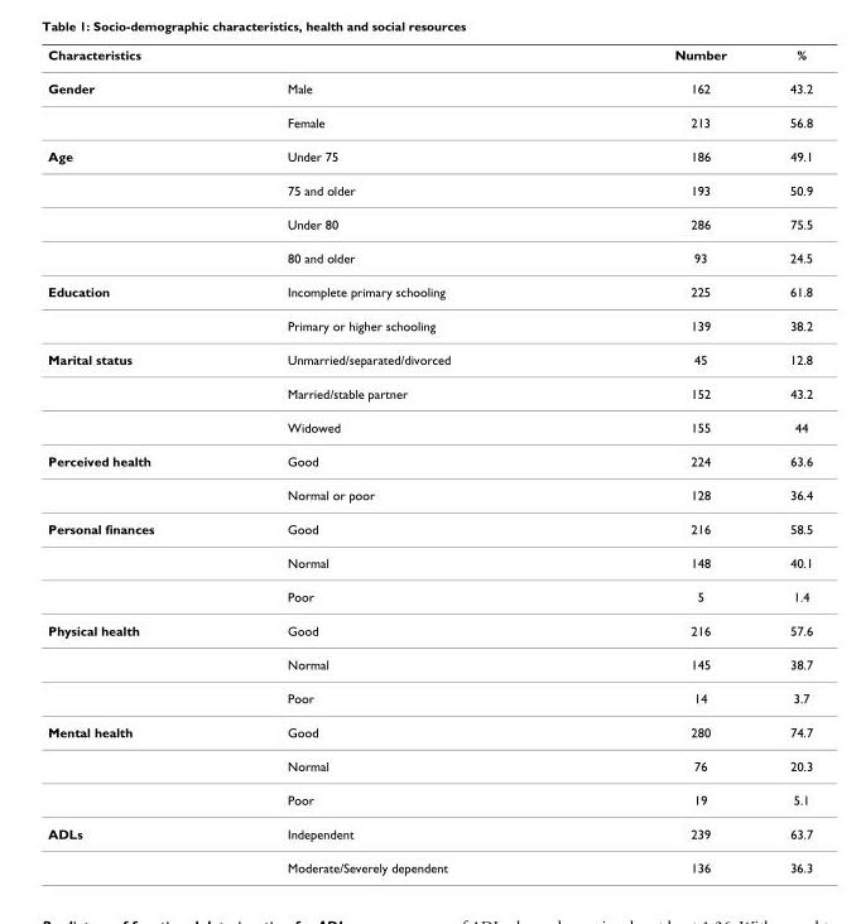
<table><thead><tr><td>Characteristics</td><td></td><td>Number</td><td>%</td></tr></thead><tbody><tr><td rowspan="2">Gender</td><td>Male</td><td>162</td><td>43.2</td></tr><tr><td>Female</td><td>213</td><td>56.8</td></tr><tr><td rowspan="4">Age</td><td>Under 75</td><td>186</td><td>49.1</td></tr><tr><td>75 and older</td><td>193</td><td>50.9</td></tr><tr><td>Under 80</td><td>286</td><td>75.5</td></tr><tr><td>80 and older</td><td>93</td><td>24.5</td></tr><tr><td rowspan="2">Education</td><td>Incomplete primary schooling</td><td>225</td><td>61.8</td></tr><tr><td>Primary or higher schooling</td><td>139</td><td>38.2</td></tr><tr><td rowspan="3">Marital status</td><td>Unmarried/separated/divorced</td><td>45</td><td>12.8</td></tr><tr><td>Married/stable partner</td><td>152</td><td>43.2</td></tr><tr><td>Widowed</td><td>155</td><td>44</td></tr><tr><td rowspan="2">Perceived health</td><td>Good</td><td>224</td><td>63.6</td></tr><tr><td>Normal or poor</td><td>128</td><td>36.4</td></tr><tr><td rowspan="3">Personal finances</td><td>Good</td><td>216</td><td>58.5</td></tr><tr><td>Normal</td><td>148</td><td>40.1</td></tr><tr><td>Poor</td><td>5</td><td>1.4</td></tr><tr><td rowspan="3">Physical health</td><td>Good</td><td>216</td><td>57.6</td></tr><tr><td>Normal</td><td>145</td><td>38.7</td></tr><tr><td>Poor</td><td>14</td><td>3.7</td></tr><tr><td rowspan="3">Mental health</td><td>Good</td><td>280</td><td>74.7</td></tr><tr><td>Normal</td><td>76</td><td>20.3</td></tr><tr><td>Poor</td><td>19</td><td>5.1</td></tr><tr><td rowspan="2">ADLs</td><td>Independent</td><td>239</td><td>63.7</td></tr><tr><td>Moderate/Severely dependent</td><td>136</td><td>36.3</td></tr></tbody></table>